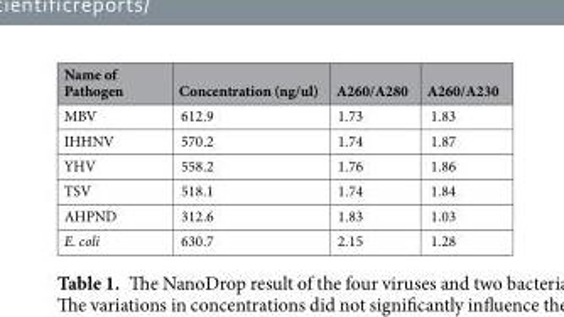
<table><thead><tr><td>Name of Pathogen</td><td>Concentration (ng/ul)</td><td>A260/A280</td><td>A260/A230</td></tr></thead><tbody><tr><td>MBV</td><td>612.9</td><td>1.73</td><td>1.83</td></tr><tr><td>IHHNV</td><td>570.2</td><td>1.74</td><td>1.87</td></tr><tr><td>YHV</td><td>558.2</td><td>1.76</td><td>1.86</td></tr><tr><td>TSV</td><td>518.1</td><td>1.74</td><td>1.84</td></tr><tr><td>AHPND</td><td>312.6</td><td>1.83</td><td>1.03</td></tr><tr><td>E. coli</td><td>630.7</td><td>2.15</td><td>1.28</td></tr></tbody></table>